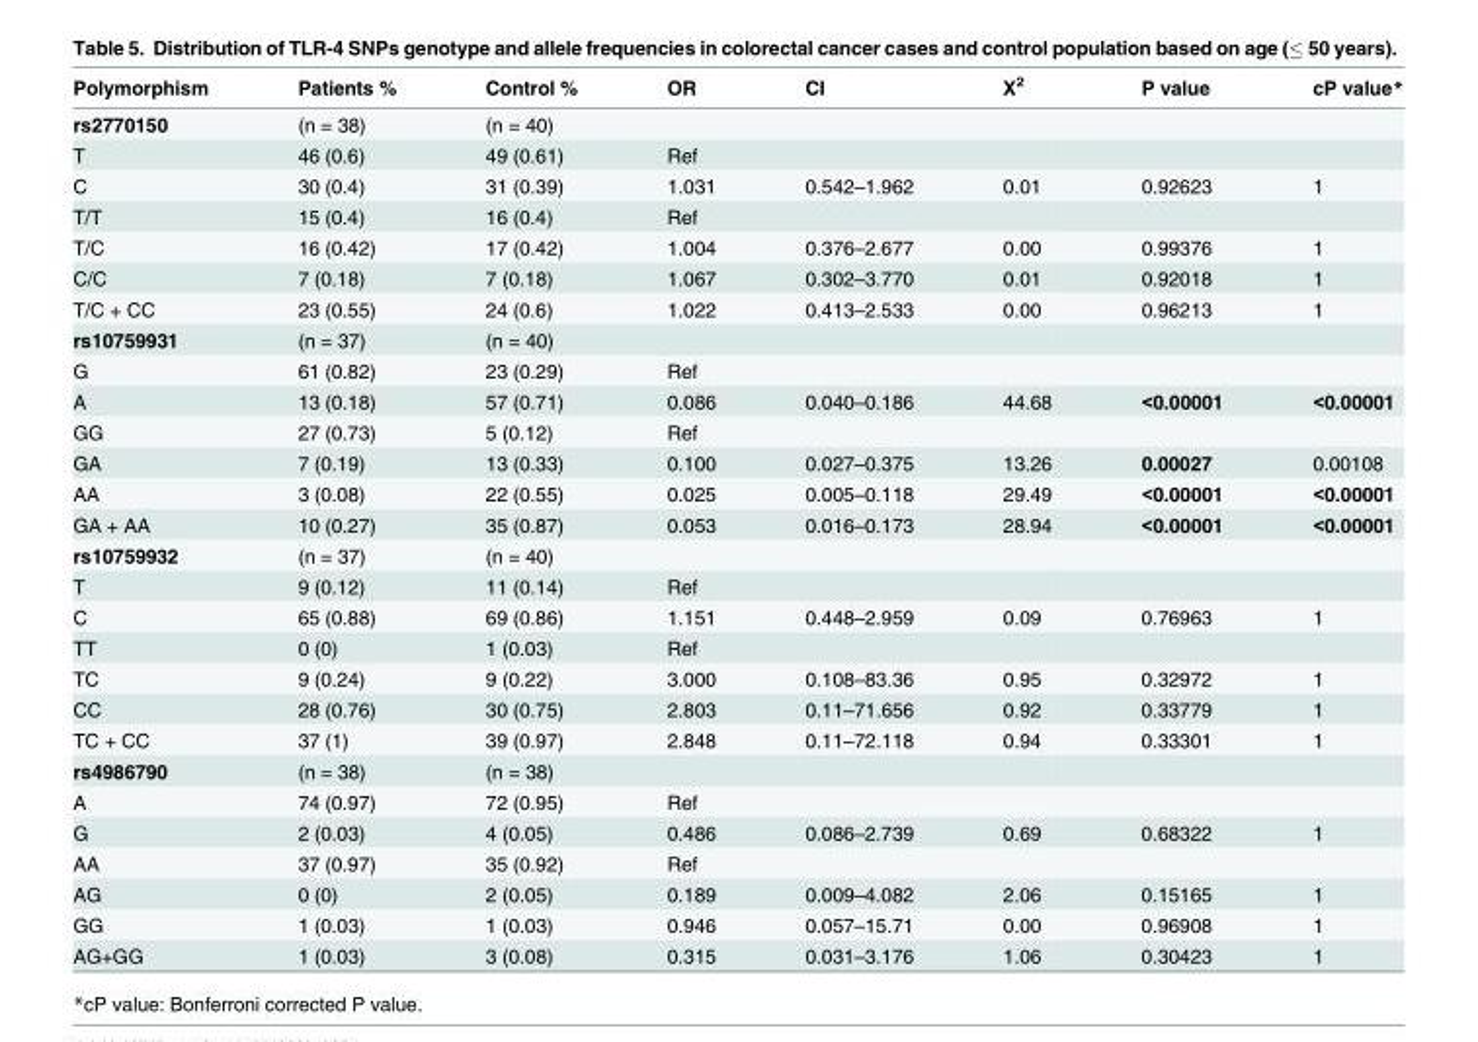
<table><thead><tr><td>Polymorphism</td><td>Patients %</td><td>Control %</td><td>OR</td><td>CI</td><td>X<sup>2</sup></td><td>P value</td><td>cP value*</td></tr></thead><tbody><tr><td>rs2770150</td><td>(n = 38)</td><td>(n = 40)</td><td></td><td></td><td></td><td></td><td></td></tr><tr><td>T</td><td>46 (0.6)</td><td>49 (0.61)</td><td>Ref</td><td></td><td></td><td></td><td></td></tr><tr><td>C</td><td>30 (0.4)</td><td>31 (0.39)</td><td>1.031</td><td>0.542–1.962</td><td>0.01</td><td>0.92623</td><td>1</td></tr><tr><td>T/T</td><td>15 (0.4)</td><td>16 (0.4)</td><td>Ref</td><td></td><td></td><td></td><td></td></tr><tr><td>T/C</td><td>16 (0.42)</td><td>17 (0.42)</td><td>1.004</td><td>0.376–2.677</td><td>0.00</td><td>0.99376</td><td>1</td></tr><tr><td>C/C</td><td>7 (0.18)</td><td>7 (0.18)</td><td>1.067</td><td>0.302–3.770</td><td>0.01</td><td>0.92018</td><td>1</td></tr><tr><td>T/C + CC</td><td>23 (0.55)</td><td>24 (0.6)</td><td>1.022</td><td>0.413–2.533</td><td>0.00</td><td>0.96213</td><td>1</td></tr><tr><td>rs10759931</td><td>(n = 37)</td><td>(n = 40)</td><td></td><td></td><td></td><td></td><td></td></tr><tr><td>G</td><td>61 (0.82)</td><td>23 (0.29)</td><td>Ref</td><td></td><td></td><td></td><td></td></tr><tr><td>A</td><td>13 (0.18)</td><td>57 (0.71)</td><td>0.086</td><td>0.040–0.186</td><td>44.68</td><td>&lt;0.00001</td><td>&lt;0.00001</td></tr><tr><td>GG</td><td>27 (0.73)</td><td>5 (0.12)</td><td>Ref</td><td></td><td></td><td></td><td></td></tr><tr><td>GA</td><td>7 (0.19)</td><td>13 (0.33)</td><td>0.100</td><td>0.027–0.375</td><td>13.26</td><td>0.00027</td><td>0.00108</td></tr><tr><td>AA</td><td>3 (0.08)</td><td>22 (0.55)</td><td>0.025</td><td>0.005–0.118</td><td>29.49</td><td>&lt;0.00001</td><td>&lt;0.00001</td></tr><tr><td>GA + AA</td><td>10 (0.27)</td><td>35 (0.87)</td><td>0.053</td><td>0.016–0.173</td><td>28.94</td><td>&lt;0.00001</td><td>&lt;0.00001</td></tr><tr><td>rs10759932</td><td>(n = 37)</td><td>(n = 40)</td><td></td><td></td><td></td><td></td><td></td></tr><tr><td>T</td><td>9 (0.12)</td><td>11 (0.14)</td><td>Ref</td><td></td><td></td><td></td><td></td></tr><tr><td>C</td><td>65 (0.88)</td><td>69 (0.86)</td><td>1.151</td><td>0.448–2.959</td><td>0.09</td><td>0.76963</td><td>1</td></tr><tr><td>TT</td><td>0 (0)</td><td>1 (0.03)</td><td>Ref</td><td></td><td></td><td></td><td></td></tr><tr><td>TC</td><td>9 (0.24)</td><td>9 (0.22)</td><td>3.000</td><td>0.108–83.36</td><td>0.95</td><td>0.32972</td><td>1</td></tr><tr><td>CC</td><td>28 (0.76)</td><td>30 (0.75)</td><td>2.803</td><td>0.11–71.656</td><td>0.92</td><td>0.33779</td><td>1</td></tr><tr><td>TC + CC</td><td>37 (1)</td><td>39 (0.97)</td><td>2.848</td><td>0.11–72.118</td><td>0.94</td><td>0.33301</td><td>1</td></tr><tr><td>rs4986790</td><td>(n = 38)</td><td>(n = 38)</td><td></td><td></td><td></td><td></td><td></td></tr><tr><td>A</td><td>74 (0.97)</td><td>72 (0.95)</td><td>Ref</td><td></td><td></td><td></td><td></td></tr><tr><td>G</td><td>2 (0.03)</td><td>4 (0.05)</td><td>0.486</td><td>0.086–2.739</td><td>0.69</td><td>0.68322</td><td>1</td></tr><tr><td>AA</td><td>37 (0.97)</td><td>35 (0.92)</td><td>Ref</td><td></td><td></td><td></td><td></td></tr><tr><td>AG</td><td>0 (0)</td><td>2 (0.05)</td><td>0.189</td><td>0.009–4.082</td><td>2.06</td><td>0.15165</td><td>1</td></tr><tr><td>GG</td><td>1 (0.03)</td><td>1 (0.03)</td><td>0.946</td><td>0.057–15.71</td><td>0.00</td><td>0.96908</td><td>1</td></tr><tr><td>AG+GG</td><td>1 (0.03)</td><td>3 (0.08)</td><td>0.315</td><td>0.031–3.176</td><td>1.06</td><td>0.30423</td><td>1</td></tr></tbody></table>